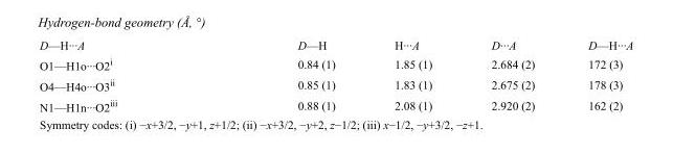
<table><tbody><tr><td>D—H···A</td><td>D—H</td><td>H···A</td><td>D···A</td><td>D—H···A</td></tr><tr><td>O1—H1o···O2<sup>i</sup></td><td>0.84 (1)</td><td>1.85 (1)</td><td>2.684 (2)</td><td>172 (3)</td></tr><tr><td>O4—H4o···O3<sup>ii</sup></td><td>0.85 (1)</td><td>1.83 (1)</td><td>2.675 (2)</td><td>178 (3)</td></tr><tr><td>N1—H1n···O2<sup>iii</sup></td><td>0.88 (1)</td><td>2.08 (1)</td><td>2.920 (2)</td><td>162 (2)</td></tr></tbody></table>